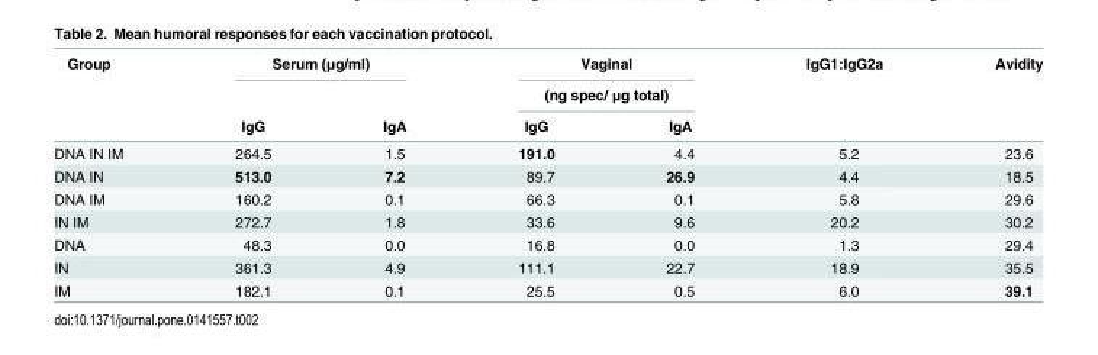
<table><thead><tr><td rowspan="3">Group</td><td colspan="2">Serum (μg/ml)</td><td rowspan="2" colspan="2">Vaginal (ng spec/ μg total)</td><td rowspan="3">IgG1:IgG2a</td><td rowspan="3">Avidity</td></tr><tr><td rowspan="2">IgG</td><td rowspan="2">IgA</td></tr><tr><td>IgG</td><td>IgA</td></tr></thead><tbody><tr><td>DNA IN IM</td><td>264.5</td><td>1.5</td><td>191.0</td><td>4.4</td><td>5.2</td><td>23.6</td></tr><tr><td>DNA IN</td><td>513.0</td><td>7.2</td><td>89.7</td><td>26.9</td><td>4.4</td><td>18.5</td></tr><tr><td>DNA IM</td><td>160.2</td><td>0.1</td><td>66.3</td><td>0.1</td><td>5.8</td><td>29.6</td></tr><tr><td>IN IM</td><td>272.7</td><td>1.8</td><td>33.6</td><td>9.6</td><td>20.2</td><td>30.2</td></tr><tr><td>DNA</td><td>48.3</td><td>0.0</td><td>16.8</td><td>0.0</td><td>1.3</td><td>29.4</td></tr><tr><td>IN</td><td>361.3</td><td>4.9</td><td>111.1</td><td>22.7</td><td>18.9</td><td>35.5</td></tr><tr><td>IM</td><td>182.1</td><td>0.1</td><td>25.5</td><td>0.5</td><td>6.0</td><td>39.1</td></tr></tbody></table>